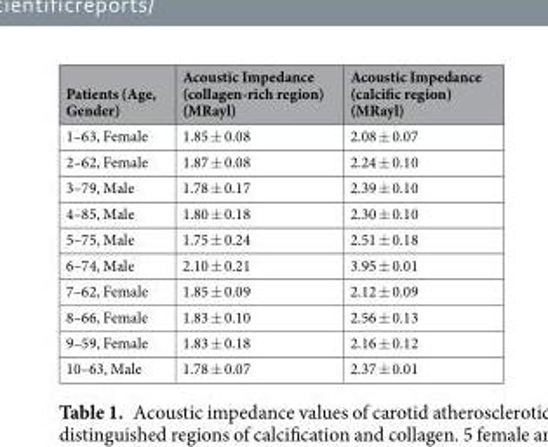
<table><thead><tr><td>Patients (Age, Gender)</td><td>Acoustic Impedance (collagen-rich region) (MRayl)</td><td>Acoustic Impedance (calcific region) (MRayl)</td></tr></thead><tbody><tr><td>1–63, Female</td><td>1.85 ± 0.08</td><td>2.08 ± 0.07</td></tr><tr><td>2–62, Female</td><td>1.87 ± 0.08</td><td>2.24 ± 0.10</td></tr><tr><td>3–79, Male</td><td>1.78 ± 0.17</td><td>2.39 ± 0.10</td></tr><tr><td>4–85, Male</td><td>1.80 ± 0.18</td><td>2.30 ± 0.10</td></tr><tr><td>5–75, Male</td><td>1.75 ± 0.24</td><td>2.51 ± 0.18</td></tr><tr><td>6–74, Male</td><td>2.10 ± 0.21</td><td>3.95 ± 0.01</td></tr><tr><td>7–62, Female</td><td>1.85 ± 0.09</td><td>2.12 ± 0.09</td></tr><tr><td>8–66, Female</td><td>1.83 ± 0.10</td><td>2.56 ± 0.13</td></tr><tr><td>9–59, Female</td><td>1.83 ± 0.18</td><td>2.16 ± 0.12</td></tr><tr><td>10–63, Male</td><td>1.78 ± 0.07</td><td>2.37 ± 0.01</td></tr></tbody></table>